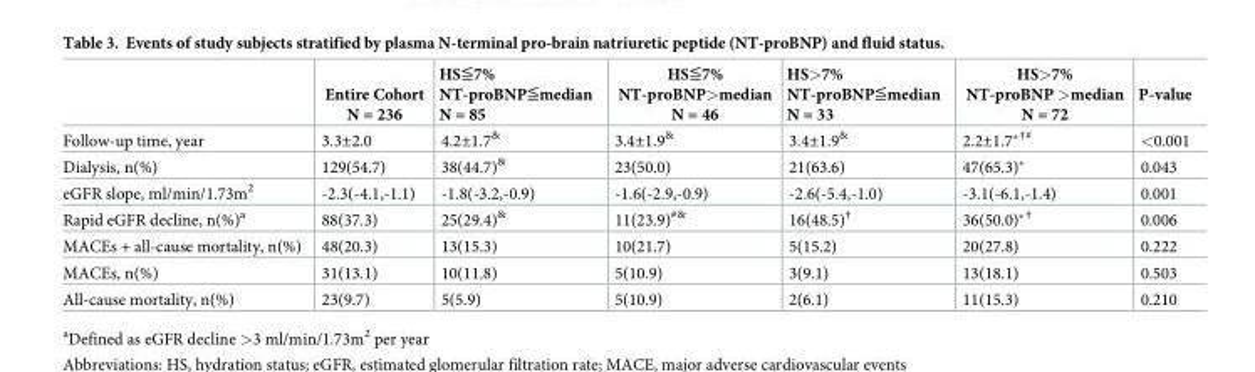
<table><thead><tr><td></td><td>Entire Cohort N = 236</td><td>HS≦7% NT-proBNP≦median N = 85</td><td>HS≦7% NT-proBNP&gt;median N = 46</td><td>HS&gt;7% NT-proBNP≦median N = 33</td><td>HS&gt;7% NT-proBNP &gt;median N = 72</td><td>P-value</td></tr></thead><tbody><tr><td>Follow-up time, year</td><td>3.3±2.0</td><td>4.2±1.7<sup>&amp;</sup></td><td>3.4±1.9<sup>&amp;</sup></td><td>3.4±1.9<sup>&amp;</sup></td><td>2.2±1.7*<sup>†#</sup></td><td>&lt;0.001</td></tr><tr><td>Dialysis, n(%)</td><td>129(54.7)</td><td>38(44.7)<sup>&amp;</sup></td><td>23(50.0)</td><td>21(63.6)</td><td>47(65.3)*</td><td>0.043</td></tr><tr><td>eGFR slope, ml/min/1.73m<sup>2</sup></td><td>-2.3(-4.1,-1.1)</td><td>-1.8(-3.2,-0.9)</td><td>-1.6(-2.9,-0.9)</td><td>-2.6(-5.4,-1.0)</td><td>-3.1(-6.1,-1.4)</td><td>0.001</td></tr><tr><td>Rapid eGFR decline, n(%)<sup>a</sup></td><td>88(37.3)</td><td>25(29.4)<sup>&amp;</sup></td><td>11(23.9)<sup>#&amp;</sup></td><td>16(48.5)<sup>†</sup></td><td>36(50.0)*<sup>†</sup></td><td>0.006</td></tr><tr><td>MACEs + all-cause mortality, n(%)</td><td>48(20.3)</td><td>13(15.3)</td><td>10(21.7)</td><td>5(15.2)</td><td>20(27.8)</td><td>0.222</td></tr><tr><td>MACEs, n(%)</td><td>31(13.1)</td><td>10(11.8)</td><td>5(10.9)</td><td>3(9.1)</td><td>13(18.1)</td><td>0.503</td></tr><tr><td>All-cause mortality, n(%)</td><td>23(9.7)</td><td>5(5.9)</td><td>5(10.9)</td><td>2(6.1)</td><td>11(15.3)</td><td>0.210</td></tr></tbody></table>